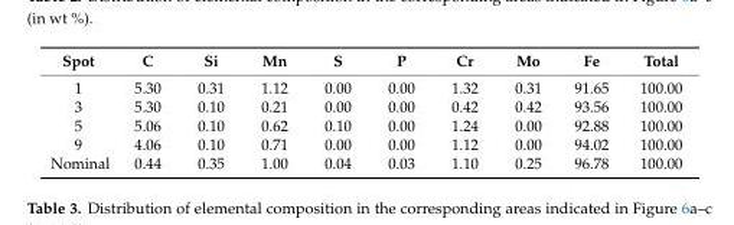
<table><thead><tr><td>Spot</td><td>C</td><td>Si</td><td>Mn</td><td>S</td><td>P</td><td>Cr</td><td>Mo</td><td>Fe</td><td>Total</td></tr></thead><tbody><tr><td>1</td><td>5.30</td><td>0.31</td><td>1.12</td><td>0.00</td><td>0.00</td><td>1.32</td><td>0.31</td><td>91.65</td><td>100.00</td></tr><tr><td>3</td><td>5.30</td><td>0.10</td><td>0.21</td><td>0.00</td><td>0.00</td><td>0.42</td><td>0.42</td><td>93.56</td><td>100.00</td></tr><tr><td>5</td><td>5.06</td><td>0.10</td><td>0.62</td><td>0.10</td><td>0.00</td><td>1.24</td><td>0.00</td><td>92.88</td><td>100.00</td></tr><tr><td>9</td><td>4.06</td><td>0.10</td><td>0.71</td><td>0.00</td><td>0.00</td><td>1.12</td><td>0.00</td><td>94.02</td><td>100.00</td></tr><tr><td>Nominal</td><td>0.44</td><td>0.35</td><td>1.00</td><td>0.04</td><td>0.03</td><td>1.10</td><td>0.25</td><td>96.78</td><td>100.00</td></tr></tbody></table>